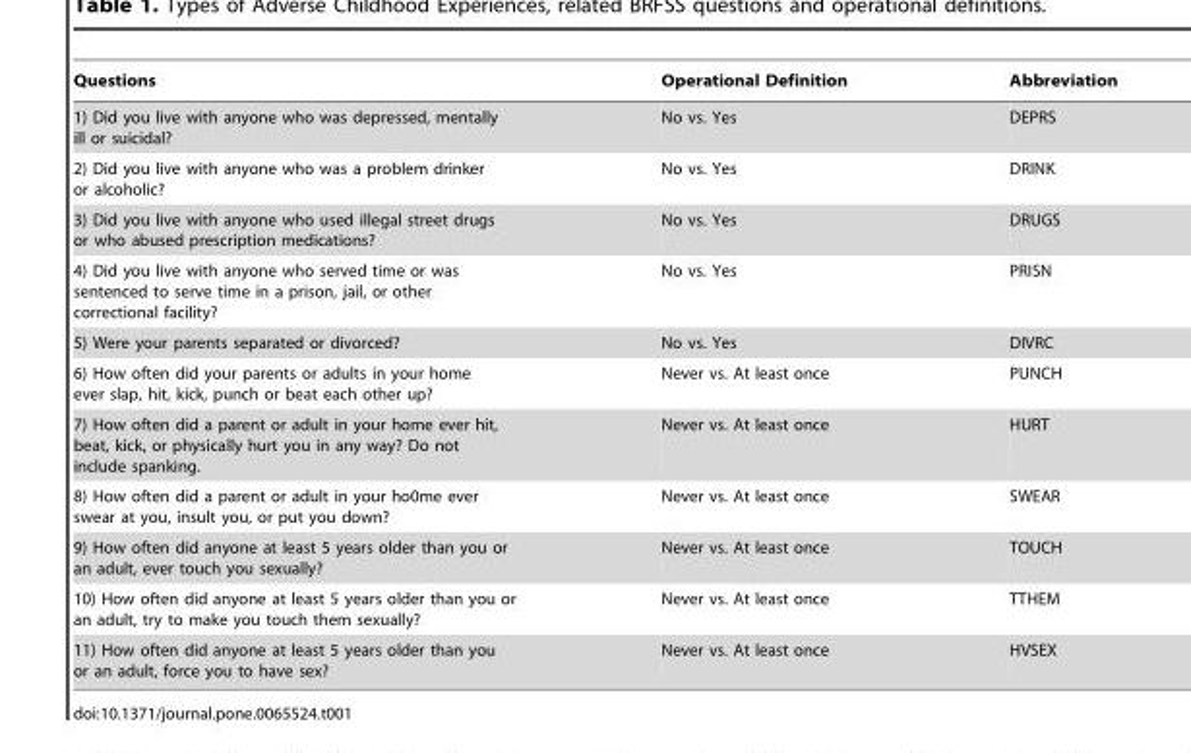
<table><thead><tr><td>Questions</td><td>Operational Definition</td><td>Abbreviation</td></tr></thead><tbody><tr><td>1) Did you live with anyone who was depressed, mentally ill or suicidal?</td><td>No vs. Yes</td><td>DEPRS</td></tr><tr><td>2) Did you live with anyone who was a problem drinker or alcoholic?</td><td>No vs. Yes</td><td>DRINK</td></tr><tr><td>3) Did you live with anyone who used illegal street drugs or who abused prescription medications?</td><td>No vs. Yes</td><td>DRUGS</td></tr><tr><td>4) Did you live with anyone who served time or was sentenced to serve time in a prison, jail, or other correctional facility?</td><td>No vs. Yes</td><td>PRISN</td></tr><tr><td>5) Were your parents separated or divorced?</td><td>No vs. Yes</td><td>DIVRC</td></tr><tr><td>6) How often did your parents or adults in your home ever slap, hit, kick, punch or beat each other up?</td><td>Never vs. At least once</td><td>PUNCH</td></tr><tr><td>7) How often did a parent or adult in your home ever hit, beat, kick, or physically hurt you in any way? Do not include spanking.</td><td>Never vs. At least once</td><td>HURT</td></tr><tr><td>8) How often did a parent or adult in your ho0me ever swear at you, insult you, or put you down?</td><td>Never vs. At least once</td><td>SWEAR</td></tr><tr><td>9) How often did anyone at least 5 years older than you or an adult, ever touch you sexually?</td><td>Never vs. At least once</td><td>TOUCH</td></tr><tr><td>10) How often did anyone at least 5 years older than you or an adult, try to make you touch them sexually?</td><td>Never vs. At least once</td><td>TTHEM</td></tr><tr><td>11) How often did anyone at least 5 years older than you or an adult, force you to have sex?</td><td>Never vs. At least once</td><td>HVSEX</td></tr></tbody></table>